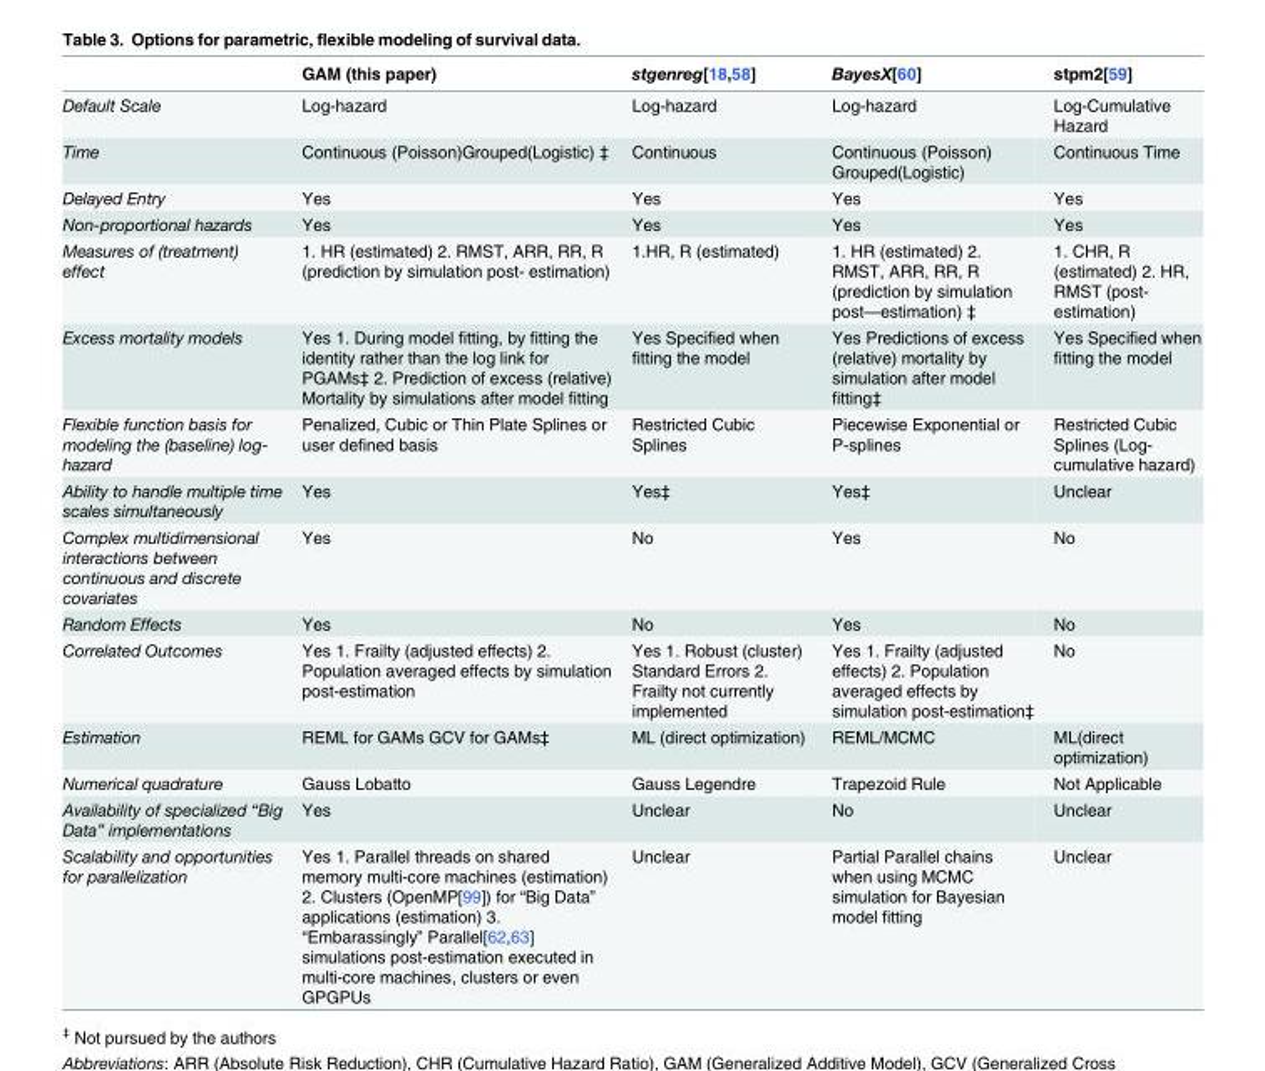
<table><thead><tr><td></td><td>GAM (this paper)</td><td>stgenreg[18,58]</td><td>BayesX[60]</td><td>stpm2[59]</td></tr></thead><tbody><tr><td>Default Scale</td><td>Log-hazard</td><td>Log-hazard</td><td>Log-hazard</td><td>Log-Cumulative Hazard</td></tr><tr><td>Time</td><td>Continuous (Poisson)Grouped(Logistic) ‡</td><td>Continuous</td><td>Continuous (Poisson) Grouped(Logistic)</td><td>Continuous Time</td></tr><tr><td>Delayed Entry</td><td>Yes</td><td>Yes</td><td>Yes</td><td>Yes</td></tr><tr><td>Non-proportional hazards</td><td>Yes</td><td>Yes</td><td>Yes</td><td>Yes</td></tr><tr><td>Measures of (treatment) effect</td><td>1. HR (estimated) 2. RMST, ARR, RR, R (prediction by simulation post- estimation)</td><td>1.HR, R (estimated)</td><td>1. HR (estimated) 2. RMST, ARR, RR, R (prediction by simulation post—estimation) ‡</td><td>1. CHR, R (estimated) 2. HR, RMST (post- estimation)</td></tr><tr><td>Excess mortality models</td><td>Yes 1. During model fitting, by fitting the identity rather than the log link for PGAMs‡ 2. Prediction of excess (relative) Mortality by simulations after model fitting</td><td>Yes Specified when fitting the model</td><td>Yes Predictions of excess (relative) mortality by simulation after model fitting‡</td><td>Yes Specified when fitting the model</td></tr><tr><td>Flexible function basis for modeling the (baseline) log- hazard</td><td>Penalized, Cubic or Thin Plate Splines or user defined basis</td><td>Restricted Cubic Splines</td><td>Piecewise Exponential or P-splines</td><td>Restricted Cubic Splines (Log- cumulative hazard)</td></tr><tr><td>Ability to handle multiple time scales simultaneously</td><td>Yes</td><td>Yes‡</td><td>Yes‡</td><td>Unclear</td></tr><tr><td>Complex multidimensional interactions between continuous and discrete covariates</td><td>Yes</td><td>No</td><td>Yes</td><td>No</td></tr><tr><td>Random Effects</td><td>Yes</td><td>No</td><td>Yes</td><td>No</td></tr><tr><td>Correlated Outcomes</td><td>Yes 1. Frailty (adjusted effects) 2. Population averaged effects by simulation post-estimation</td><td>Yes 1. Robust (cluster) Standard Errors 2. Frailty not currently implemented</td><td>Yes 1. Frailty (adjusted effects) 2. Population averaged effects by simulation post-estimation‡</td><td>No</td></tr><tr><td>Estimation</td><td>REML for GAMs GCV for GAMs‡</td><td>ML (direct optimization)</td><td>REML/MCMC</td><td>ML(direct optimization)</td></tr><tr><td>Numerical quadrature</td><td>Gauss Lobatto</td><td>Gauss Legendre</td><td>Trapezoid Rule</td><td>Not Applicable</td></tr><tr><td>Availability of specialized “Big Data” implementations</td><td>Yes</td><td>Unclear</td><td>No</td><td>Unclear</td></tr><tr><td>Scalability and opportunities for parallelization</td><td>Yes 1. Parallel threads on shared memory multi-core machines (estimation) 2. Clusters (OpenMP[99]) for “Big Data” applications (estimation) 3. “Embarassingly” Parallel[62,63] simulations post-estimation executed in multi-core machines, clusters or even GPGPUs</td><td>Unclear</td><td>Partial Parallel chains when using MCMC simulation for Bayesian model fitting</td><td>Unclear</td></tr></tbody></table>